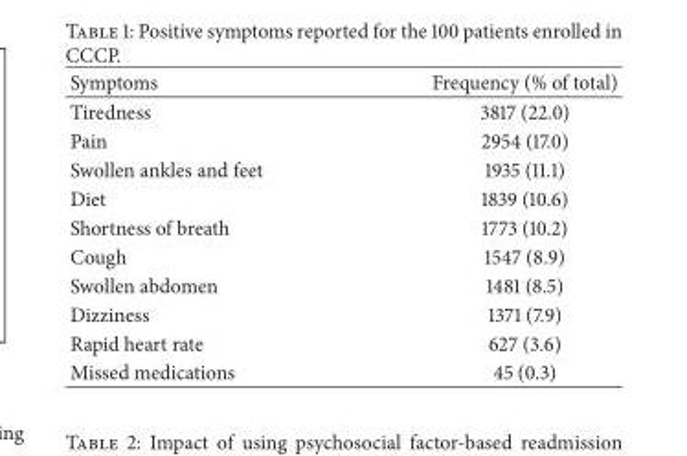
<table><thead><tr><td>Symptoms</td><td>Frequency (% of total)</td></tr></thead><tbody><tr><td>Tiredness</td><td>3817 (22.0)</td></tr><tr><td>Pain</td><td>2954 (17.0)</td></tr><tr><td>Swollen ankles and feet</td><td>1935 (11.1)</td></tr><tr><td>Diet</td><td>1839 (10.6)</td></tr><tr><td>Shortness of breath</td><td>1773 (10.2)</td></tr><tr><td>Cough</td><td>1547 (8.9)</td></tr><tr><td>Swollen abdomen</td><td>1481 (8.5)</td></tr><tr><td>Dizziness</td><td>1371 (7.9)</td></tr><tr><td>Rapid heart rate</td><td>627 (3.6)</td></tr><tr><td>Missed medications</td><td>45 (0.3)</td></tr></tbody></table>